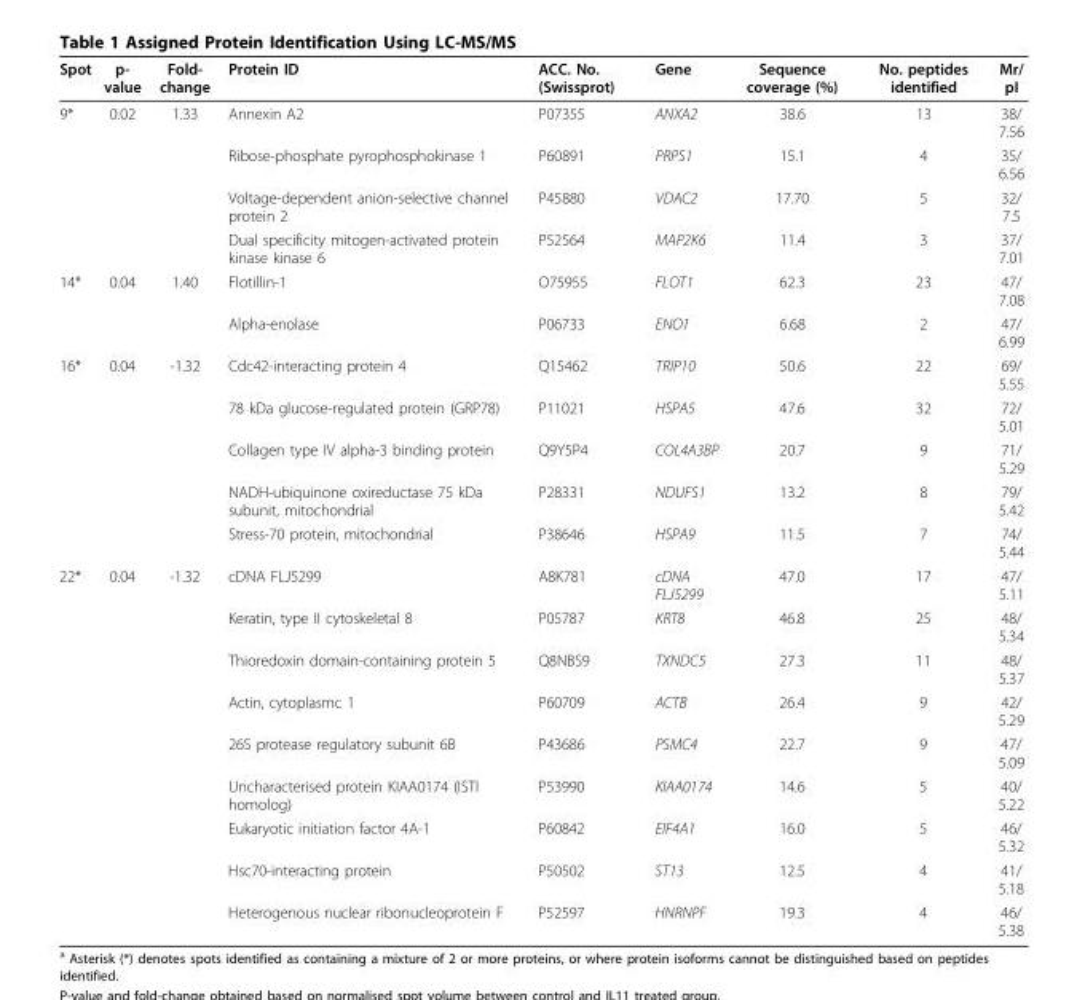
<table><thead><tr><td>Spot</td><td>p- value</td><td>Fold- change</td><td>Protein ID</td><td>ACC. No. (Swissprot)</td><td>Gene</td><td>Sequence coverage (%)</td><td>No. peptides identified</td><td>Mr/ pI</td></tr></thead><tbody><tr><td rowspan="4">9*</td><td>0.02</td><td>1.33</td><td>Annexin A2</td><td>P07355</td><td>ANXA2</td><td>38.6</td><td>13</td><td>38/ 7.56</td></tr><tr><td></td><td></td><td>Ribose-phosphate pyrophosphokinase 1</td><td>P60891</td><td>PRPS1</td><td>15.1</td><td>4</td><td>35/ 6.56</td></tr><tr><td></td><td></td><td>Voltage-dependent anion-selective channel protein 2</td><td>P45880</td><td>VDAC2</td><td>17.70</td><td>5</td><td>32/ 7.5</td></tr><tr><td></td><td></td><td>Dual specificity mitogen-activated protein kinase kinase 6</td><td>P52564</td><td>MAP2K6</td><td>11.4</td><td>3</td><td>37/ 7.01</td></tr><tr><td rowspan="2">14*</td><td>0.04</td><td>1.40</td><td>Flotillin-1</td><td>O75955</td><td>FLOT1</td><td>62.3</td><td>23</td><td>47/ 7.08</td></tr><tr><td></td><td></td><td>Alpha-enolase</td><td>P06733</td><td>ENO1</td><td>6.68</td><td>2</td><td>47/ 6.99</td></tr><tr><td rowspan="5">16*</td><td>0.04</td><td>-1.32</td><td>Cdc42-interacting protein 4</td><td>Q15462</td><td>TRIP10</td><td>50.6</td><td>22</td><td>69/ 5.55</td></tr><tr><td></td><td></td><td>78 kDa glucose-regulated protein (GRP78)</td><td>P11021</td><td>HSPA5</td><td>47.6</td><td>32</td><td>72/ 5.01</td></tr><tr><td></td><td></td><td>Collagen type IV alpha-3 binding protein</td><td>Q9Y5P4</td><td>COL4A3BP</td><td>20.7</td><td>9</td><td>71/ 5.29</td></tr><tr><td></td><td></td><td>NADH-ubiquinone oxireductase 75 kDa subunit, mitochondrial</td><td>P28331</td><td>NDUFS1</td><td>13.2</td><td>8</td><td>79/ 5.42</td></tr><tr><td></td><td></td><td>Stress-70 protein, mitochondrial</td><td>P38646</td><td>HSPA9</td><td>11.5</td><td>7</td><td>74/ 5.44</td></tr><tr><td rowspan="9">22*</td><td>0.04</td><td>-1.32</td><td>cDNA FLJ5299</td><td>A8K781</td><td>cDNA FLJ5299</td><td>47.0</td><td>17</td><td>47/ 5.11</td></tr><tr><td></td><td></td><td>Keratin, type II cytoskeletal 8</td><td>P05787</td><td>KRT8</td><td>46.8</td><td>25</td><td>48/ 5.34</td></tr><tr><td></td><td></td><td>Thioredoxin domain-containing protein 5</td><td>Q8NBS9</td><td>TXNDC5</td><td>27.3</td><td>11</td><td>48/ 5.37</td></tr><tr><td></td><td></td><td>Actin, cytoplasmc 1</td><td>P60709</td><td>ACTB</td><td>26.4</td><td>9</td><td>42/ 5.29</td></tr><tr><td></td><td></td><td>26S protease regulatory subunit 6B</td><td>P43686</td><td>PSMC4</td><td>22.7</td><td>9</td><td>47/ 5.09</td></tr><tr><td></td><td></td><td>Uncharacterised protein KIAA0174 (ISTI homolog)</td><td>P53990</td><td>KIAA0174</td><td>14.6</td><td>5</td><td>40/ 5.22</td></tr><tr><td></td><td></td><td>Eukaryotic initiation factor 4A-1</td><td>P60842</td><td>EIF4A1</td><td>16.0</td><td>5</td><td>46/ 5.32</td></tr><tr><td></td><td></td><td>Hsc70-interacting protein</td><td>P50502</td><td>ST13</td><td>12.5</td><td>4</td><td>41/ 5.18</td></tr><tr><td></td><td></td><td>Heterogenous nuclear ribonucleoprotein F</td><td>P52597</td><td>HNRNPF</td><td>19.3</td><td>4</td><td>46/ 5.38</td></tr></tbody></table>